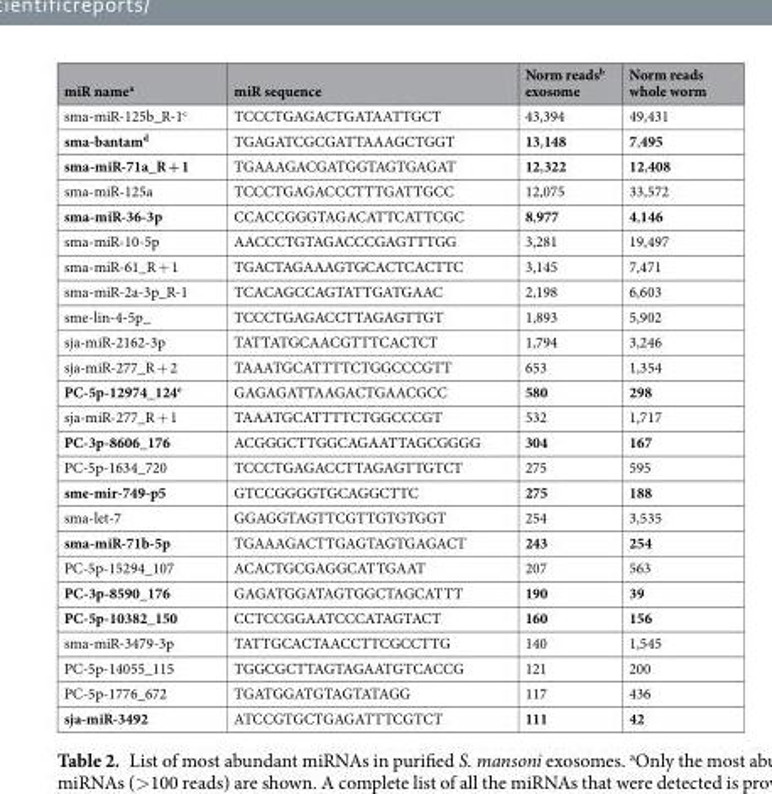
<table><thead><tr><td>miR name<sup>a</sup></td><td>miR sequence</td><td>Norm reads<sup>b</sup> exosome</td><td>Norm reads whole worm</td></tr></thead><tbody><tr><td>sma-miR-125b_R-1<sup>c</sup></td><td>TCCCTGAGACTGATAATTGCT</td><td>43,394</td><td>49,431</td></tr><tr><td>sma-bantam<sup>d</sup></td><td>TGAGATCGCGATTAAAGCTGGT</td><td>13,148</td><td>7,495</td></tr><tr><td>sma-miR-71a_R + 1</td><td>TGAAAGACGATGGTAGTGAGAT</td><td>12,322</td><td>12,408</td></tr><tr><td>sma-miR-125a</td><td>TCCCTGAGACCCTTTGATTGCC</td><td>12,075</td><td>33,572</td></tr><tr><td>sma-miR-36-3p</td><td>CCACCGGGTAGACATTCATTCGC</td><td>8,977</td><td>4,146</td></tr><tr><td>sma-miR-10-5p</td><td>AACCCTGTAGACCCGAGTTTGG</td><td>3,281</td><td>19,497</td></tr><tr><td>sma-miR-61_R + 1</td><td>TGACTAGAAAGTGCACTCACTTC</td><td>3,145</td><td>7,471</td></tr><tr><td>sma-miR-2a-3p_R-1</td><td>TCACAGCCAGTATTGATGAAC</td><td>2,198</td><td>6,603</td></tr><tr><td>sme-lin-4-5p_</td><td>TCCCTGAGACCTTAGAGTTGT</td><td>1,893</td><td>5,902</td></tr><tr><td>sja-miR-2162-3p</td><td>TATTATGCAACGTTTCACTCT</td><td>1,794</td><td>3,246</td></tr><tr><td>sja-miR-277_R + 2</td><td>TAAATGCATTTTCTGGCCCGTT</td><td>653</td><td>1,354</td></tr><tr><td>PC-5p-12974_124<sup>e</sup></td><td>GAGAGATTAAGACTGAACGCC</td><td>580</td><td>298</td></tr><tr><td>sja-miR-277_R + 1</td><td>TAAATGCATTTTCTGGCCCGT</td><td>532</td><td>1,717</td></tr><tr><td>PC-3p-8606_176</td><td>ACGGGCTTGGCAGAATTAGCGGGG</td><td>304</td><td>167</td></tr><tr><td>PC-5p-1634_720</td><td>TCCCTGAGACCTTAGAGTTGTCT</td><td>275</td><td>595</td></tr><tr><td>sme-mir-749-p5</td><td>GTCCGGGGTGCAGGCTTC</td><td>275</td><td>188</td></tr><tr><td>sma-let-7</td><td>GGAGGTAGTTCGTTGTGTGGT</td><td>254</td><td>3,535</td></tr><tr><td>sma-miR-71b-5p</td><td>TGAAAGACTTGAGTAGTGAGACT</td><td>243</td><td>254</td></tr><tr><td>PC-5p-15294_107</td><td>ACACTGCGAGGCATTGAAT</td><td>207</td><td>563</td></tr><tr><td>PC-3p-8590_176</td><td>GAGATGGATAGTGGCTAGCATTT</td><td>190</td><td>39</td></tr><tr><td>PC-5p-10382_150</td><td>CCTCCGGAATCCCATAGTACT</td><td>160</td><td>156</td></tr><tr><td>sma-miR-3479-3p</td><td>TATTGCACTAACCTTCGCCTTG</td><td>140</td><td>1,545</td></tr><tr><td>PC-5p-14055_115</td><td>TGGCGCTTAGTAGAATGTCACCG</td><td>121</td><td>200</td></tr><tr><td>PC-5p-1776_672</td><td>TGATGGATGTAGTATAGG</td><td>117</td><td>436</td></tr><tr><td>sja-miR-3492</td><td>ATCCGTGCTGAGATTTCGTCT</td><td>111</td><td>42</td></tr></tbody></table>